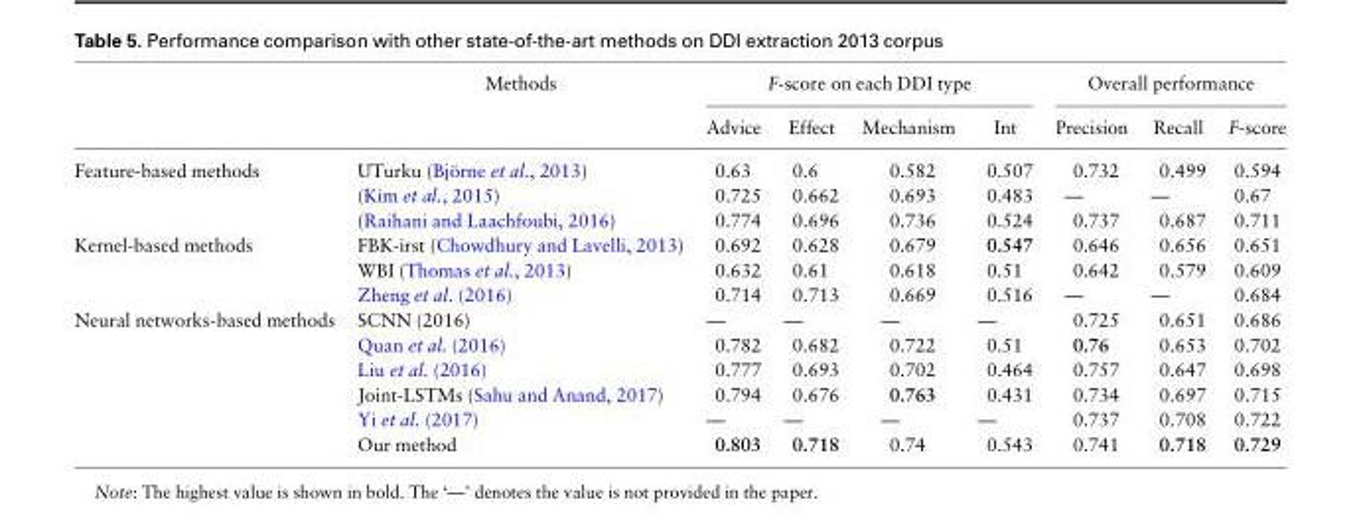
<table><thead><tr><td rowspan="2"></td><td rowspan="2">Methods</td><td colspan="4">F-score on each DDI type</td><td colspan="3">Overall performance</td></tr><tr><td>Advice</td><td>Effect</td><td>Mechanism</td><td>Int</td><td>Precision</td><td>Recall</td><td>F-score</td></tr></thead><tbody><tr><td rowspan="3">Feature-based methods</td><td>UTurku (Bjo¨rne et al., 2013)</td><td>0.63</td><td>0.6</td><td>0.582</td><td>0.507</td><td>0.732</td><td>0.499</td><td>0.594</td></tr><tr><td>(Kim et al., 2015)</td><td>0.725</td><td>0.662</td><td>0.693</td><td>0.483</td><td>—</td><td>—</td><td>0.67</td></tr><tr><td>(Raihani and Laachfoubi, 2016)</td><td>0.774</td><td>0.696</td><td>0.736</td><td>0.524</td><td>0.737</td><td>0.687</td><td>0.711</td></tr><tr><td rowspan="3">Kernel-based methods</td><td>FBK-irst (Chowdhury and Lavelli, 2013)</td><td>0.692</td><td>0.628</td><td>0.679</td><td>0.547</td><td>0.646</td><td>0.656</td><td>0.651</td></tr><tr><td>WBI (Thomas et al., 2013)</td><td>0.632</td><td>0.61</td><td>0.618</td><td>0.51</td><td>0.642</td><td>0.579</td><td>0.609</td></tr><tr><td>Zheng et al. (2016)</td><td>0.714</td><td>0.713</td><td>0.669</td><td>0.516</td><td>—</td><td>—</td><td>0.684</td></tr><tr><td rowspan="6">Neural networks-based methods</td><td>SCNN (2016)</td><td>—</td><td>—</td><td>—</td><td>—</td><td>0.725</td><td>0.651</td><td>0.686</td></tr><tr><td>Quan et al. (2016)</td><td>0.782</td><td>0.682</td><td>0.722</td><td>0.51</td><td>0.76</td><td>0.653</td><td>0.702</td></tr><tr><td>Liu et al. (2016)</td><td>0.777</td><td>0.693</td><td>0.702</td><td>0.464</td><td>0.757</td><td>0.647</td><td>0.698</td></tr><tr><td>Joint-LSTMs (Sahu and Anand, 2017)</td><td>0.794</td><td>0.676</td><td>0.763</td><td>0.431</td><td>0.734</td><td>0.697</td><td>0.715</td></tr><tr><td>Yi et al. (2017)</td><td>—</td><td>—</td><td>—</td><td>—</td><td>0.737</td><td>0.708</td><td>0.722</td></tr><tr><td>Our method</td><td>0.803</td><td>0.718</td><td>0.74</td><td>0.543</td><td>0.741</td><td>0.718</td><td>0.729</td></tr></tbody></table>